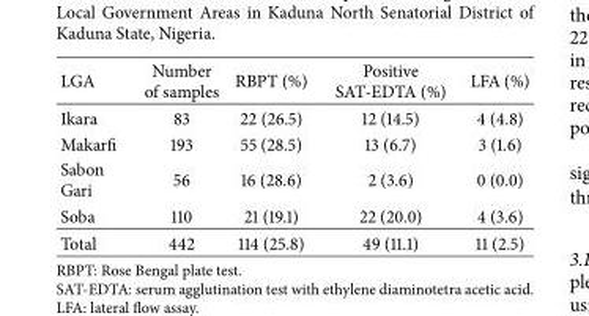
<table><thead><tr><td>LGA</td><td>Number of samples</td><td>RBPT (%)</td><td>Positive SAT-EDTA (%)</td><td>LFA (%)</td></tr></thead><tbody><tr><td>Ikara</td><td>83</td><td>22 (26.5)</td><td>12 (14.5)</td><td>4 (4.8)</td></tr><tr><td>Makarfi</td><td>193</td><td>55 (28.5)</td><td>13 (6.7)</td><td>3 (1.6)</td></tr><tr><td>Sabon Gari</td><td>56</td><td>16 (28.6)</td><td>2 (3.6)</td><td>0 (0.0)</td></tr><tr><td>Soba</td><td>110</td><td>21 (19.1)</td><td>22 (20.0)</td><td>4 (3.6)</td></tr><tr><td>Total</td><td>442</td><td>114 (25.8)</td><td>49 (11.1)</td><td>11 (2.5)</td></tr></tbody></table>